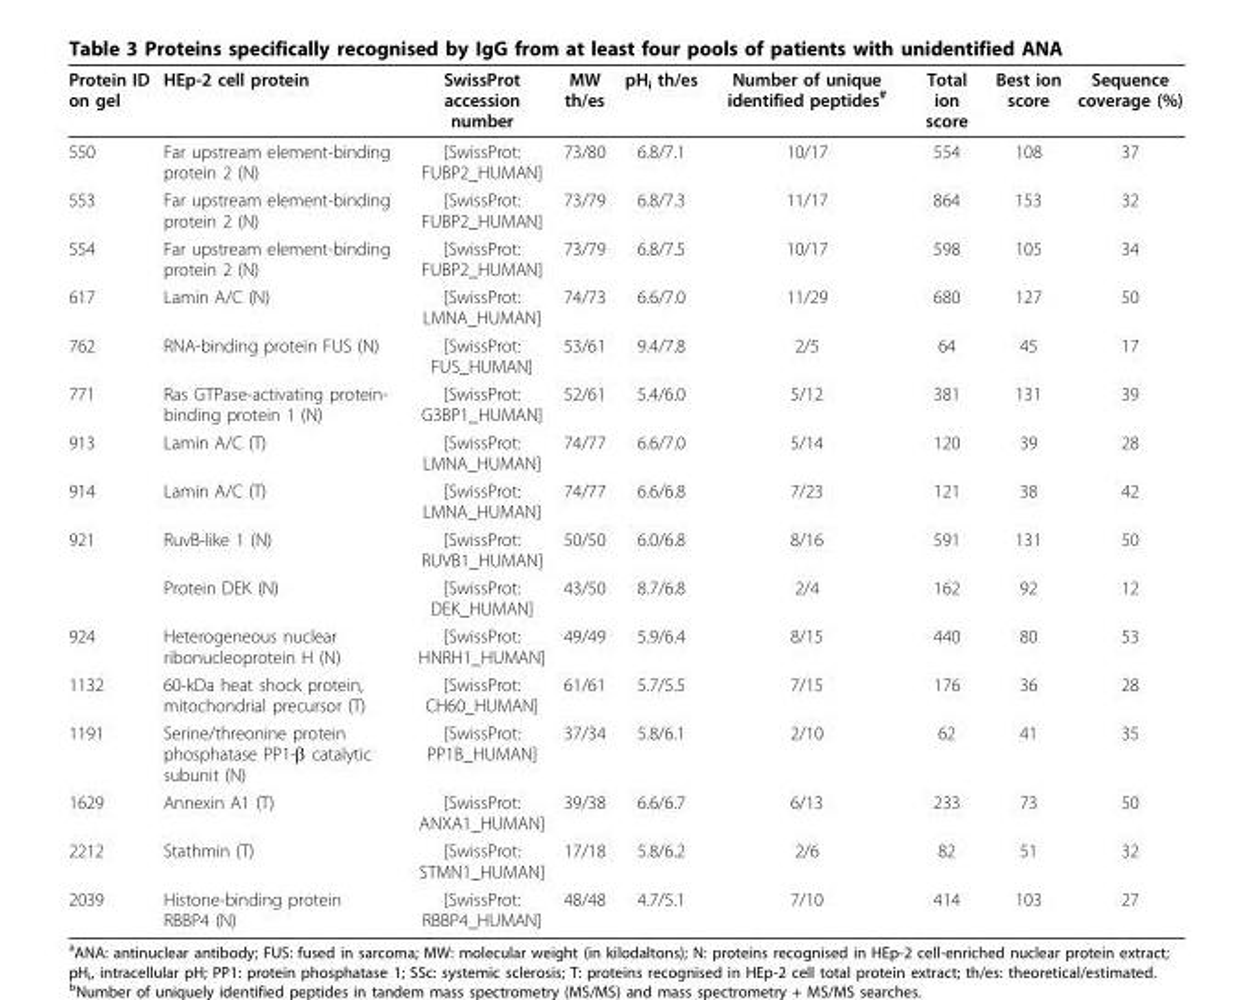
<table><thead><tr><td>Protein ID on gel</td><td>HEp-2 cell protein</td><td>SwissProt accession number</td><td>MW th/es</td><td>pH<sub>i</sub> th/es</td><td>Number of unique identified peptides<sup>#</sup></td><td>Total ion score</td><td>Best ion score</td><td>Sequence coverage (%)</td></tr></thead><tbody><tr><td>550</td><td>Far upstream element-binding protein 2 (N)</td><td>[SwissProt: FUBP2_HUMAN]</td><td>73/80</td><td>6.8/7.1</td><td>10/17</td><td>554</td><td>108</td><td>37</td></tr><tr><td>553</td><td>Far upstream element-binding protein 2 (N)</td><td>[SwissProt: FUBP2_HUMAN]</td><td>73/79</td><td>6.8/7.3</td><td>11/17</td><td>864</td><td>153</td><td>32</td></tr><tr><td>554</td><td>Far upstream element-binding protein 2 (N)</td><td>[SwissProt: FUBP2_HUMAN]</td><td>73/79</td><td>6.8/7.5</td><td>10/17</td><td>598</td><td>105</td><td>34</td></tr><tr><td>617</td><td>Lamin A/C (N)</td><td>[SwissProt: LMNA_HUMAN]</td><td>74/73</td><td>6.6/7.0</td><td>11/29</td><td>680</td><td>127</td><td>50</td></tr><tr><td>762</td><td>RNA-binding protein FUS (N)</td><td>[SwissProt: FUS_HUMAN]</td><td>53/61</td><td>9.4/7.8</td><td>2/5</td><td>64</td><td>45</td><td>17</td></tr><tr><td>771</td><td>Ras GTPase-activating protein- binding protein 1 (N)</td><td>[SwissProt: G3BP1_HUMAN]</td><td>52/61</td><td>5.4/6.0</td><td>5/12</td><td>381</td><td>131</td><td>39</td></tr><tr><td>913</td><td>Lamin A/C (T)</td><td>[SwissProt: LMNA_HUMAN]</td><td>74/77</td><td>6.6/7.0</td><td>5/14</td><td>120</td><td>39</td><td>28</td></tr><tr><td>914</td><td>Lamin A/C (T)</td><td>[SwissProt: LMNA_HUMAN]</td><td>74/77</td><td>6.6/6.8</td><td>7/23</td><td>121</td><td>38</td><td>42</td></tr><tr><td rowspan="2">921</td><td>RuvB-like 1 (N)</td><td>[SwissProt: RUVB1_HUMAN]</td><td>50/50</td><td>6.0/6.8</td><td>8/16</td><td>591</td><td>131</td><td>50</td></tr><tr><td>Protein DEK (N)</td><td>[SwissProt: DEK_HUMAN]</td><td>43/50</td><td>8.7/6.8</td><td>2/4</td><td>162</td><td>92</td><td>12</td></tr><tr><td>924</td><td>Heterogeneous nuclear ribonucleoprotein H (N)</td><td>[SwissProt: HNRH1_HUMAN]</td><td>49/49</td><td>5.9/6.4</td><td>8/15</td><td>440</td><td>80</td><td>53</td></tr><tr><td>1132</td><td>60-kDa heat shock protein, mitochondrial precursor (T)</td><td>[SwissProt: CH60_HUMAN]</td><td>61/61</td><td>5.7/5.5</td><td>7/15</td><td>176</td><td>36</td><td>28</td></tr><tr><td>1191</td><td>Serine/threonine protein phosphatase PP1-β catalytic subunit (N)</td><td>[SwissProt: PP1B_HUMAN]</td><td>37/34</td><td>5.8/6.1</td><td>2/10</td><td>62</td><td>41</td><td>35</td></tr><tr><td>1629</td><td>Annexin A1 (T)</td><td>[SwissProt: ANXA1_HUMAN]</td><td>39/38</td><td>6.6/6.7</td><td>6/13</td><td>233</td><td>73</td><td>50</td></tr><tr><td>2212</td><td>Stathmin (T)</td><td>[SwissProt: STMN1_HUMAN]</td><td>17/18</td><td>5.8/6.2</td><td>2/6</td><td>82</td><td>51</td><td>32</td></tr><tr><td>2039</td><td>Histone-binding protein RBBP4 (N)</td><td>[SwissProt: RBBP4_HUMAN]</td><td>48/48</td><td>4.7/5.1</td><td>7/10</td><td>414</td><td>103</td><td>27</td></tr></tbody></table>